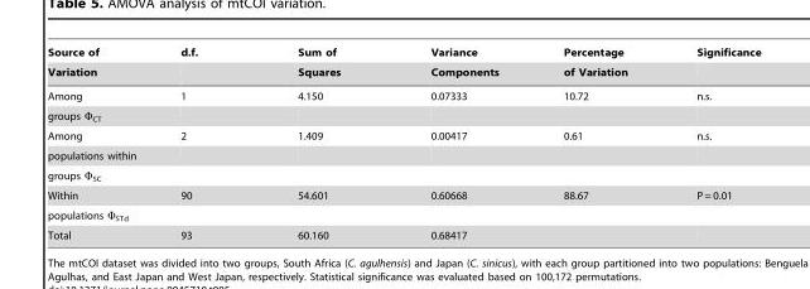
<table><thead><tr><td rowspan="2">Source of Variation</td><td rowspan="2">d.f.</td><td rowspan="2">Sum of Squares</td><td rowspan="2">Variance Components</td><td rowspan="2">Percentage of Variation</td><td rowspan="2">Significance</td></tr><tr></tr></thead><tbody><tr><td>Among</td><td>1</td><td>4.150</td><td>0.07333</td><td>10.72</td><td>n.s.</td></tr><tr><td colspan="6">groups Φ<sub>CT</sub></td></tr><tr><td>Among</td><td>2</td><td>1.409</td><td>0.00417</td><td>0.61</td><td>n.s.</td></tr><tr><td colspan="6">populations within</td></tr><tr><td colspan="6">groups Φ<sub>SC</sub></td></tr><tr><td>Within</td><td>90</td><td>54.601</td><td>0.60668</td><td>88.67</td><td>P = 0.01</td></tr><tr><td colspan="6">populations Φ<sub>STd</sub></td></tr><tr><td>Total</td><td>93</td><td>60.160</td><td>0.68417</td><td></td><td></td></tr></tbody></table>